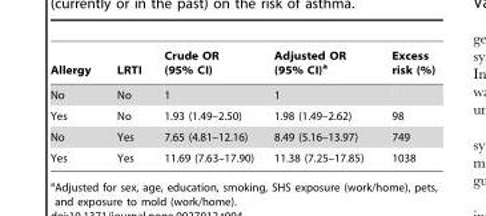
<table><thead><tr><td>Allergy</td><td>LRTI</td><td>Crude OR (95% CI)</td><td>Adjusted OR (95% CI)<sup>a</sup></td><td>Excess risk (%)</td></tr></thead><tbody><tr><td>No</td><td>No</td><td>1</td><td>1</td><td></td></tr><tr><td>Yes</td><td>No</td><td>1.93 (1.49–2.50)</td><td>1.98 (1.49–2.62)</td><td>98</td></tr><tr><td>No</td><td>Yes</td><td>7.65 (4.81–12.16)</td><td>8.49 (5.16–13.97)</td><td>749</td></tr><tr><td>Yes</td><td>Yes</td><td>11.69 (7.63–17.90)</td><td>11.38 (7.25–17.85)</td><td>1038</td></tr></tbody></table>